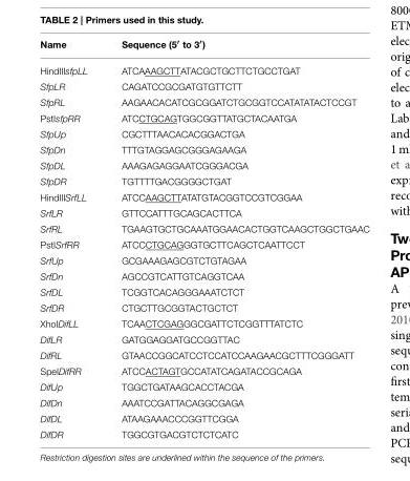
<table><thead><tr><td>Name</td><td>Sequence (5′ to 3′)</td></tr></thead><tbody><tr><td>HindIIIsfpLL</td><td>ATCAAAGCTTATACGCTGCTTCTGCCTGAT</td></tr><tr><td>SfpLR</td><td>CAGATCCGCGATGTGTTCTT</td></tr><tr><td>SfpRL</td><td>AAGAACACATCGCGGATCTGCGGTCCATATATACTCCGT</td></tr><tr><td>PstIsfpRR</td><td>ATCCTGCAGTGGCGGTTATGCTACAATGA</td></tr><tr><td>SfpUp</td><td>CGCTTTAACACACGGACTGA</td></tr><tr><td>SfpDn</td><td>TTTGTAGGAGCGGGAGAAGA</td></tr><tr><td>SfpDL</td><td>AAAGAGAGGAATCGGGACGA</td></tr><tr><td>SfpDR</td><td>TGTTTTGACGGGGCTGAT</td></tr><tr><td>HindIIISrfLL</td><td>ATCCAAGCTTATATGTACGGTCCGTCGGAA</td></tr><tr><td>SrfLR</td><td>GTTCCATTTGCAGCACTTCA</td></tr><tr><td>SrfRL</td><td>TGAAGTGCTGCAAATGGAACACTGGTCAAGCTGGCTGAAC</td></tr><tr><td>PstISrfRR</td><td>ATCCCTGCAGGGTGCTTCAGCTCAATTCCT</td></tr><tr><td>SrfUp</td><td>GCGAAAGAGCGTCTGTAGAA</td></tr><tr><td>SrfDn</td><td>AGCCGTCATTGTCAGGTCAA</td></tr><tr><td>SrfDL</td><td>TCGGTCACAGGGAAATCTCT</td></tr><tr><td>SrfDR</td><td>CTGCTTGCGGTACTGCTCT</td></tr><tr><td>XhoIDifLL</td><td>TCAACTCGAGGGCGATTCTCGGTTTATCTC</td></tr><tr><td>DifLR</td><td>GATGGAGGATGCCGGTTAC</td></tr><tr><td>DifRL</td><td>GTAACCGGCATCCTCCATCCAAGAACGCTTTCGGGATT</td></tr><tr><td>SpeIDifRR</td><td>ATCCACTAGTGCCATATCAGATACCGCAGA</td></tr><tr><td>DifUp</td><td>TGGCTGATAAGCACCTACGA</td></tr><tr><td>DifDn</td><td>AAATCCGATTACAGGCGAGA</td></tr><tr><td>DifDL</td><td>ATAAGAAACCCGGTTCGGA</td></tr><tr><td>DifDR</td><td>TGGCGTGACGTCTCTCATC</td></tr></tbody></table>